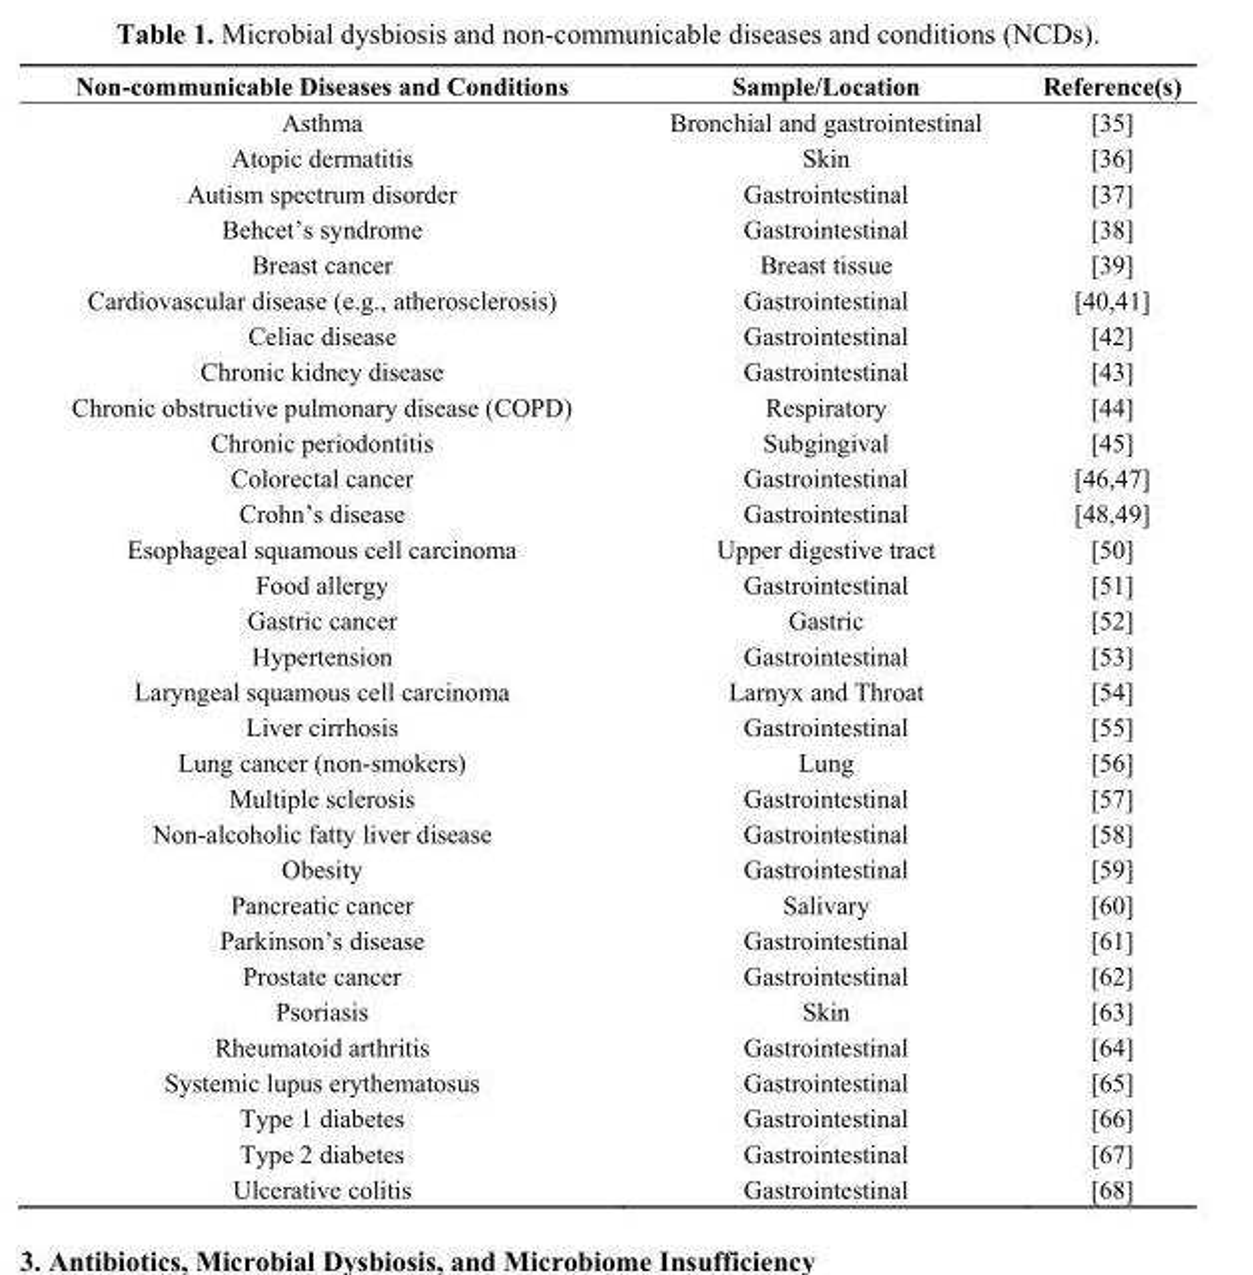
<table><thead><tr><td>Non-communicable Diseases and Conditions</td><td>Sample/Location</td><td>Reference(s)</td></tr></thead><tbody><tr><td>Asthma</td><td>Bronchial and gastrointestinal</td><td>[35]</td></tr><tr><td>Atopic dermatitis</td><td>Skin</td><td>[36]</td></tr><tr><td>Autism spectrum disorder</td><td>Gastrointestinal</td><td>[37]</td></tr><tr><td>Behcet’s syndrome</td><td>Gastrointestinal</td><td>[38]</td></tr><tr><td>Breast cancer</td><td>Breast tissue</td><td>[39]</td></tr><tr><td>Cardiovascular disease (e.g., atherosclerosis)</td><td>Gastrointestinal</td><td>[40,41]</td></tr><tr><td>Celiac disease</td><td>Gastrointestinal</td><td>[42]</td></tr><tr><td>Chronic kidney disease</td><td>Gastrointestinal</td><td>[43]</td></tr><tr><td>Chronic obstructive pulmonary disease (COPD)</td><td>Respiratory</td><td>[44]</td></tr><tr><td>Chronic periodontitis</td><td>Subgingival</td><td>[45]</td></tr><tr><td>Colorectal cancer</td><td>Gastrointestinal</td><td>[46,47]</td></tr><tr><td>Crohn’s disease</td><td>Gastrointestinal</td><td>[48,49]</td></tr><tr><td>Esophageal squamous cell carcinoma</td><td>Upper digestive tract</td><td>[50]</td></tr><tr><td>Food allergy</td><td>Gastrointestinal</td><td>[51]</td></tr><tr><td>Gastric cancer</td><td>Gastric</td><td>[52]</td></tr><tr><td>Hypertension</td><td>Gastrointestinal</td><td>[53]</td></tr><tr><td>Laryngeal squamous cell carcinoma</td><td>Larnyx and Throat</td><td>[54]</td></tr><tr><td>Liver cirrhosis</td><td>Gastrointestinal</td><td>[55]</td></tr><tr><td>Lung cancer (non-smokers)</td><td>Lung</td><td>[56]</td></tr><tr><td>Multiple sclerosis</td><td>Gastrointestinal</td><td>[57]</td></tr><tr><td>Non-alcoholic fatty liver disease</td><td>Gastrointestinal</td><td>[58]</td></tr><tr><td>Obesity</td><td>Gastrointestinal</td><td>[59]</td></tr><tr><td>Pancreatic cancer</td><td>Salivary</td><td>[60]</td></tr><tr><td>Parkinson’s disease</td><td>Gastrointestinal</td><td>[61]</td></tr><tr><td>Prostate cancer</td><td>Gastrointestinal</td><td>[62]</td></tr><tr><td>Psoriasis</td><td>Skin</td><td>[63]</td></tr><tr><td>Rheumatoid arthritis</td><td>Gastrointestinal</td><td>[64]</td></tr><tr><td>Systemic lupus erythematosus</td><td>Gastrointestinal</td><td>[65]</td></tr><tr><td>Type 1 diabetes</td><td>Gastrointestinal</td><td>[66]</td></tr><tr><td>Type 2 diabetes</td><td>Gastrointestinal</td><td>[67]</td></tr><tr><td>Ulcerative colitis</td><td>Gastrointestinal</td><td>[68]</td></tr></tbody></table>